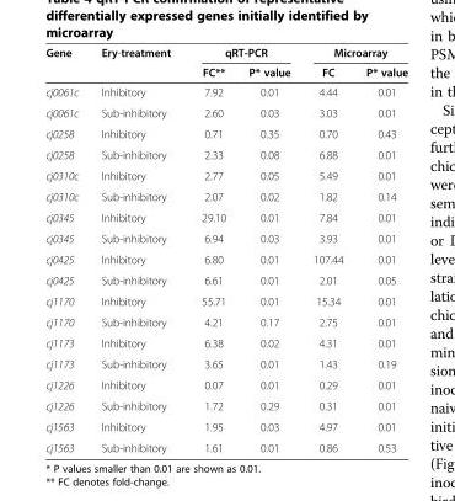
<table><thead><tr><td rowspan="2">Gene</td><td rowspan="2">Ery-treatment</td><td colspan="2">qRT-PCR</td><td colspan="2">Microarray</td></tr><tr><td>FC**</td><td>P* value</td><td>FC</td><td>P* value</td></tr></thead><tbody><tr><td>cj0061c</td><td>Inhibitory</td><td>7.92</td><td>0.01</td><td>4.44</td><td>0.01</td></tr><tr><td>cj0061c</td><td>Sub-inhibitory</td><td>2.60</td><td>0.03</td><td>3.03</td><td>0.01</td></tr><tr><td>cj0258</td><td>Inhibitory</td><td>0.71</td><td>0.35</td><td>0.70</td><td>0.43</td></tr><tr><td>cj0258</td><td>Sub-inhibitory</td><td>2.33</td><td>0.08</td><td>6.88</td><td>0.01</td></tr><tr><td>cj0310c</td><td>Inhibitory</td><td>2.77</td><td>0.05</td><td>5.49</td><td>0.01</td></tr><tr><td>cj0310c</td><td>Sub-inhibitory</td><td>2.07</td><td>0.02</td><td>1.82</td><td>0.14</td></tr><tr><td>cj0345</td><td>Inhibitory</td><td>29.10</td><td>0.01</td><td>7.84</td><td>0.01</td></tr><tr><td>cj0345</td><td>Sub-inhibitory</td><td>6.94</td><td>0.03</td><td>3.93</td><td>0.01</td></tr><tr><td>cj0425</td><td>Inhibitory</td><td>6.80</td><td>0.01</td><td>107.44</td><td>0.01</td></tr><tr><td>cj0425</td><td>Sub-inhibitory</td><td>6.61</td><td>0.01</td><td>2.01</td><td>0.05</td></tr><tr><td>cj1170</td><td>Inhibitory</td><td>55.71</td><td>0.01</td><td>15.34</td><td>0.01</td></tr><tr><td>cj1170</td><td>Sub-inhibitory</td><td>4.21</td><td>0.17</td><td>2.75</td><td>0.01</td></tr><tr><td>cj1173</td><td>Inhibitory</td><td>6.38</td><td>0.02</td><td>4.31</td><td>0.01</td></tr><tr><td>cj1173</td><td>Sub-inhibitory</td><td>3.65</td><td>0.01</td><td>1.43</td><td>0.19</td></tr><tr><td>cj1226</td><td>Inhibitory</td><td>0.07</td><td>0.01</td><td>0.29</td><td>0.01</td></tr><tr><td>cj1226</td><td>Sub-inhibitory</td><td>1.72</td><td>0.29</td><td>0.31</td><td>0.01</td></tr><tr><td>cj1563</td><td>Inhibitory</td><td>1.95</td><td>0.03</td><td>4.97</td><td>0.01</td></tr><tr><td>cj1563</td><td>Sub-inhibitory</td><td>1.61</td><td>0.01</td><td>0.86</td><td>0.53</td></tr></tbody></table>